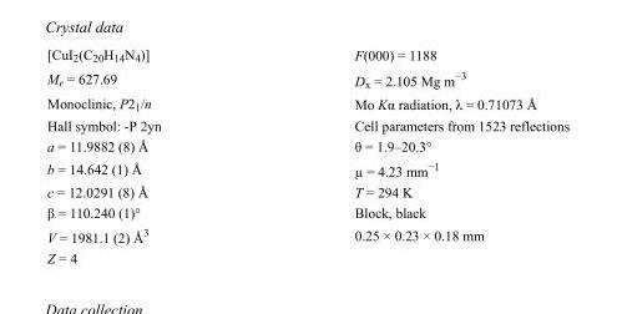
<table><tbody><tr><td>[CuI<sub>2</sub>(C<sub>20</sub>H<sub>14</sub>N<sub>4</sub>)]</td><td>F(000) = 1188</td></tr><tr><td>M<sub>r</sub> = 627.69</td><td>D<sub>x</sub> = 2.105 Mg m<sup>−3</sup></td></tr><tr><td>Monoclinic, P2<sub>1</sub>/n</td><td>Mo Kα radiation, λ = 0.71073 Å</td></tr><tr><td>Hall symbol: -P 2yn</td><td>Cell parameters from 1523 reflections</td></tr><tr><td>a = 11.9882 (8) Å</td><td>θ = 1.9–20.3°</td></tr><tr><td>b = 14.642 (1) Å</td><td>µ = 4.23 mm<sup>−1</sup></td></tr><tr><td>c = 12.0291 (8) Å</td><td>T = 294 K</td></tr><tr><td>β = 110.240 (1)°</td><td>Block, black</td></tr><tr><td>V = 1981.1 (2) Å<sup>3</sup></td><td>0.25 × 0.23 × 0.18 mm</td></tr><tr><td>Z = 4</td><td></td></tr></tbody></table>